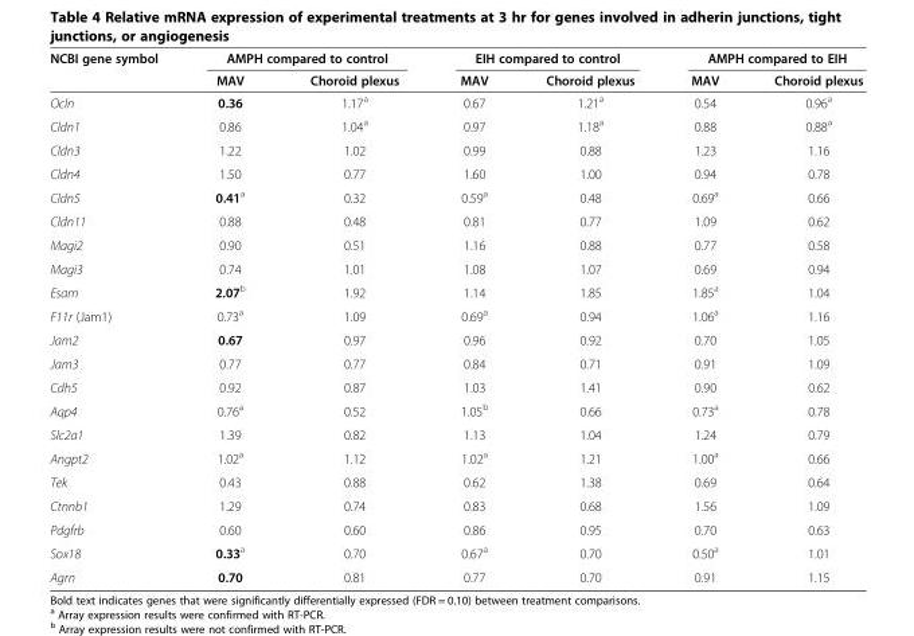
<table><thead><tr><td rowspan="2">NCBI gene symbol</td><td colspan="2">AMPH compared to control</td><td colspan="2">EIH compared to control</td><td colspan="2">AMPH compared to EIH</td></tr><tr><td>MAV</td><td>Choroid plexus</td><td>MAV</td><td>Choroid plexus</td><td>MAV</td><td>Choroid plexus</td></tr></thead><tbody><tr><td>Ocln</td><td>0.36</td><td>1.17<sup>a</sup></td><td>0.67</td><td>1.21<sup>a</sup></td><td>0.54</td><td>0.96<sup>a</sup></td></tr><tr><td>Cldn1</td><td>0.86</td><td>1.04<sup>a</sup></td><td>0.97</td><td>1.18<sup>a</sup></td><td>0.88</td><td>0.88<sup>a</sup></td></tr><tr><td>Cldn3</td><td>1.22</td><td>1.02</td><td>0.99</td><td>0.88</td><td>1.23</td><td>1.16</td></tr><tr><td>Cldn4</td><td>1.50</td><td>0.77</td><td>1.60</td><td>1.00</td><td>0.94</td><td>0.78</td></tr><tr><td>Cldn5</td><td>0.41<sup>a</sup></td><td>0.32</td><td>0.59<sup>a</sup></td><td>0.48</td><td>0.69<sup>a</sup></td><td>0.66</td></tr><tr><td>Cldn11</td><td>0.88</td><td>0.48</td><td>0.81</td><td>0.77</td><td>1.09</td><td>0.62</td></tr><tr><td>Magi2</td><td>0.90</td><td>0.51</td><td>1.16</td><td>0.88</td><td>0.77</td><td>0.58</td></tr><tr><td>Magi3</td><td>0.74</td><td>1.01</td><td>1.08</td><td>1.07</td><td>0.69</td><td>0.94</td></tr><tr><td>Esam</td><td>2.07<sup>b</sup></td><td>1.92</td><td>1.14</td><td>1.85</td><td>1.85<sup>a</sup></td><td>1.04</td></tr><tr><td>F11r (Jam1)</td><td>0.73<sup>a</sup></td><td>1.09</td><td>0.69<sup>a</sup></td><td>0.94</td><td>1.06<sup>a</sup></td><td>1.16</td></tr><tr><td>Jam2</td><td>0.67</td><td>0.97</td><td>0.96</td><td>0.92</td><td>0.70</td><td>1.05</td></tr><tr><td>Jam3</td><td>0.77</td><td>0.77</td><td>0.84</td><td>0.71</td><td>0.91</td><td>1.09</td></tr><tr><td>Cdh5</td><td>0.92</td><td>0.87</td><td>1.03</td><td>1.41</td><td>0.90</td><td>0.62</td></tr><tr><td>Aqp4</td><td>0.76<sup>a</sup></td><td>0.52</td><td>1.05<sup>b</sup></td><td>0.66</td><td>0.73<sup>a</sup></td><td>0.78</td></tr><tr><td>Slc2a1</td><td>1.39</td><td>0.82</td><td>1.13</td><td>1.04</td><td>1.24</td><td>0.79</td></tr><tr><td>Angpt2</td><td>1.02<sup>a</sup></td><td>1.12</td><td>1.02<sup>a</sup></td><td>1.21</td><td>1.00<sup>a</sup></td><td>0.66</td></tr><tr><td>Tek</td><td>0.43</td><td>0.88</td><td>0.62</td><td>1.38</td><td>0.69</td><td>0.64</td></tr><tr><td>Ctnnb1</td><td>1.29</td><td>0.74</td><td>0.83</td><td>0.68</td><td>1.56</td><td>1.09</td></tr><tr><td>Pdgfrb</td><td>0.60</td><td>0.60</td><td>0.86</td><td>0.95</td><td>0.70</td><td>0.63</td></tr><tr><td>Sox18</td><td>0.33<sup>a</sup></td><td>0.70</td><td>0.67<sup>a</sup></td><td>0.70</td><td>0.50<sup>a</sup></td><td>1.01</td></tr><tr><td>Agrn</td><td>0.70</td><td>0.81</td><td>0.77</td><td>0.70</td><td>0.91</td><td>1.15</td></tr></tbody></table>